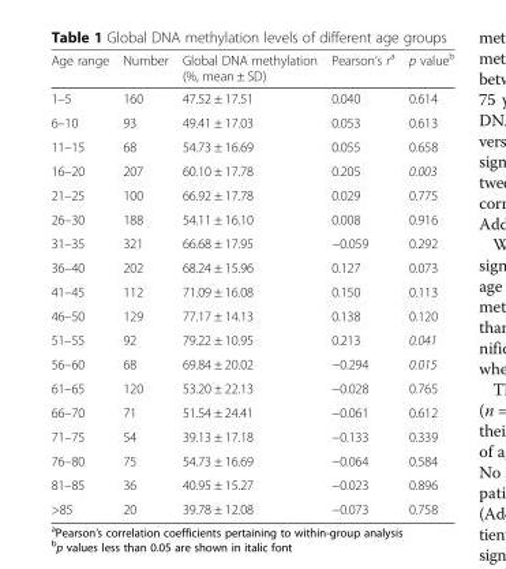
<table><thead><tr><td>Age range</td><td>Number</td><td>Global DNA methylation (%, mean ± SD)</td><td>Pearson’s r<sup>a</sup></td><td>p value<sup>b</sup></td></tr></thead><tbody><tr><td>1–5</td><td>160</td><td>47.52 ± 17.51</td><td>0.040</td><td>0.614</td></tr><tr><td>6–10</td><td>93</td><td>49.41 ± 17.03</td><td>0.053</td><td>0.613</td></tr><tr><td>11–15</td><td>68</td><td>54.73 ± 16.69</td><td>0.055</td><td>0.658</td></tr><tr><td>16–20</td><td>207</td><td>60.10 ± 17.78</td><td>0.205</td><td>0.003</td></tr><tr><td>21–25</td><td>100</td><td>66.92 ± 17.78</td><td>0.029</td><td>0.775</td></tr><tr><td>26–30</td><td>188</td><td>54.11 ± 16.10</td><td>0.008</td><td>0.916</td></tr><tr><td>31–35</td><td>321</td><td>66.68 ± 17.95</td><td>−0.059</td><td>0.292</td></tr><tr><td>36–40</td><td>202</td><td>68.24 ± 15.96</td><td>0.127</td><td>0.073</td></tr><tr><td>41–45</td><td>112</td><td>71.09 ± 16.08</td><td>0.150</td><td>0.113</td></tr><tr><td>46–50</td><td>129</td><td>77.17 ± 14.13</td><td>0.138</td><td>0.120</td></tr><tr><td>51–55</td><td>92</td><td>79.22 ± 10.95</td><td>0.213</td><td>0.041</td></tr><tr><td>56–60</td><td>68</td><td>69.84 ± 20.02</td><td>−0.294</td><td>0.015</td></tr><tr><td>61–65</td><td>120</td><td>53.20 ± 22.13</td><td>−0.028</td><td>0.765</td></tr><tr><td>66–70</td><td>71</td><td>51.54 ± 24.41</td><td>−0.061</td><td>0.612</td></tr><tr><td>71–75</td><td>54</td><td>39.13 ± 17.18</td><td>−0.133</td><td>0.339</td></tr><tr><td>76–80</td><td>75</td><td>54.73 ± 16.69</td><td>−0.064</td><td>0.584</td></tr><tr><td>81–85</td><td>36</td><td>40.95 ± 15.27</td><td>−0.023</td><td>0.896</td></tr><tr><td>&gt;85</td><td>20</td><td>39.78 ± 12.08</td><td>−0.073</td><td>0.758</td></tr></tbody></table>